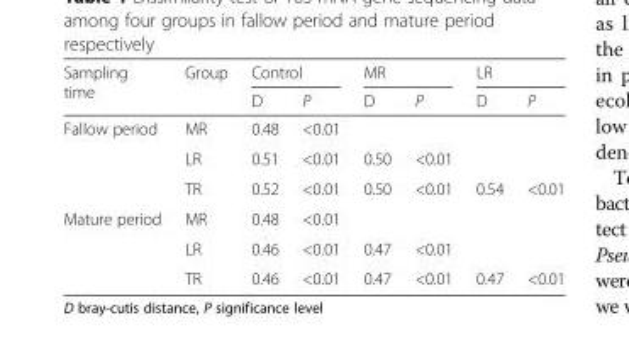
<table><thead><tr><td rowspan="2">Sampling time</td><td rowspan="2">Group</td><td colspan="2">Control</td><td colspan="2">MR</td><td colspan="2">LR</td></tr><tr><td>D</td><td>P</td><td>D</td><td>P</td><td>D</td><td>P</td></tr></thead><tbody><tr><td rowspan="3">Fallow period</td><td>MR</td><td>0.48</td><td>&lt;0.01</td><td></td><td></td><td></td><td rowspan="2"></td></tr><tr><td>LR</td><td>0.51</td><td>&lt;0.01</td><td>0.50</td><td>&lt;0.01</td><td></td></tr><tr><td>TR</td><td>0.52</td><td>&lt;0.01</td><td>0.50</td><td>&lt;0.01</td><td>0.54</td><td>&lt;0.01</td></tr><tr><td rowspan="3">Mature period</td><td>MR</td><td>0.48</td><td>&lt;0.01</td><td></td><td></td><td></td><td rowspan="2"></td></tr><tr><td>LR</td><td>0.46</td><td>&lt;0.01</td><td>0.47</td><td>&lt;0.01</td><td></td></tr><tr><td>TR</td><td>0.46</td><td>&lt;0.01</td><td>0.47</td><td>&lt;0.01</td><td>0.47</td><td>&lt;0.01</td></tr></tbody></table>